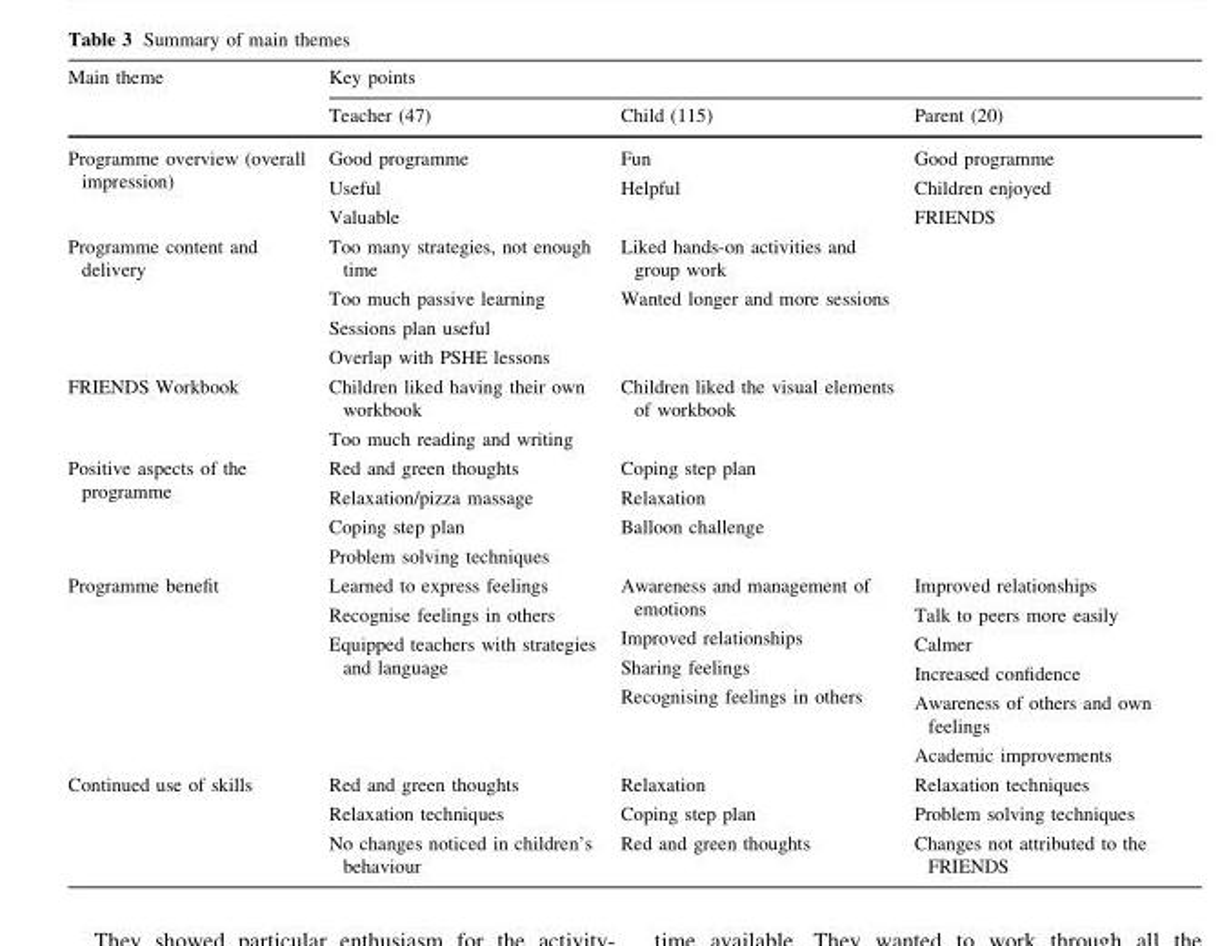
<table><thead><tr><td rowspan="2">Main theme</td><td colspan="3">Key points</td></tr><tr><td>Teacher (47)</td><td>Child (115)</td><td>Parent (20)</td></tr></thead><tbody><tr><td>Programme overview (overall impression)</td><td>Good programme Useful Valuable</td><td>Fun Helpful</td><td>Good programme Children enjoyed FRIENDS</td></tr><tr><td>Programme content and delivery</td><td>Too many strategies, not enough time Too much passive learning Sessions plan useful Overlap with PSHE lessons</td><td>Liked hands-on activities and group work Wanted longer and more sessions</td><td></td></tr><tr><td>FRIENDS Workbook</td><td>Children liked having their own workbook Too much reading and writing</td><td>Children liked the visual elements of workbook</td><td></td></tr><tr><td>Positive aspects of the programme</td><td>Red and green thoughts Relaxation/pizza massage Coping step plan Problem solving techniques</td><td>Coping step plan Relaxation Balloon challenge</td><td></td></tr><tr><td>Programme benefit</td><td>Learned to express feelings Recognise feelings in others Equipped teachers with strategies and language</td><td>Awareness and management of emotions Improved relationships Sharing feelings Recognising feelings in others</td><td>Improved relationships Talk to peers more easily Calmer Increased confidence Awareness of others and own feelings Academic improvements</td></tr><tr><td>Continued use of skills</td><td>Red and green thoughts Relaxation techniques No changes noticed in children’s behaviour</td><td>Relaxation Coping step plan Red and green thoughts</td><td>Relaxation techniques Problem solving techniques Changes not attributed to the FRIENDS</td></tr></tbody></table>